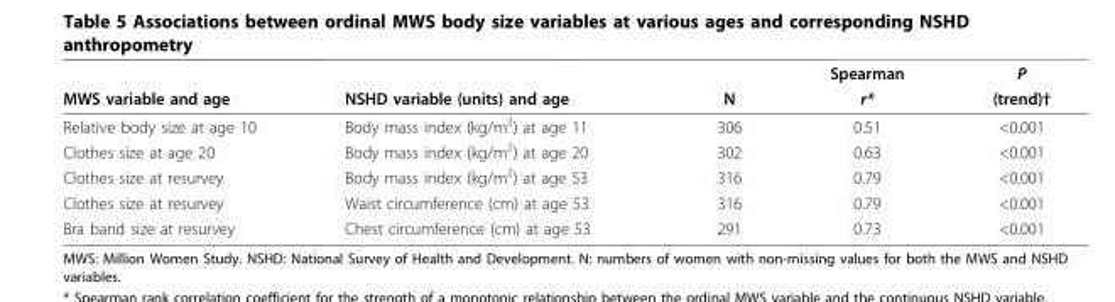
<table><thead><tr><td rowspan="2">MWS variable and age</td><td rowspan="2">NSHD variable (units) and age</td><td rowspan="2">N</td><td rowspan="2">Spearman r*</td><td rowspan="2">P (trend)†</td></tr><tr></tr></thead><tbody><tr><td>Relative body size at age 10</td><td>Body mass index (kg/m<sup>2</sup>) at age 11</td><td>306</td><td>0.51</td><td>&lt;0.001</td></tr><tr><td>Clothes size at age 20</td><td>Body mass index (kg/m<sup>2</sup>) at age 20</td><td>302</td><td>0.63</td><td>&lt;0.001</td></tr><tr><td>Clothes size at resurvey</td><td>Body mass index (kg/m<sup>2</sup>) at age 53</td><td>316</td><td>0.79</td><td>&lt;0.001</td></tr><tr><td>Clothes size at resurvey</td><td>Waist circumference (cm) at age 53</td><td>316</td><td>0.79</td><td>&lt;0.001</td></tr><tr><td>Bra band size at resurvey</td><td>Chest circumference (cm) at age 53</td><td>291</td><td>0.73</td><td>&lt;0.001</td></tr></tbody></table>